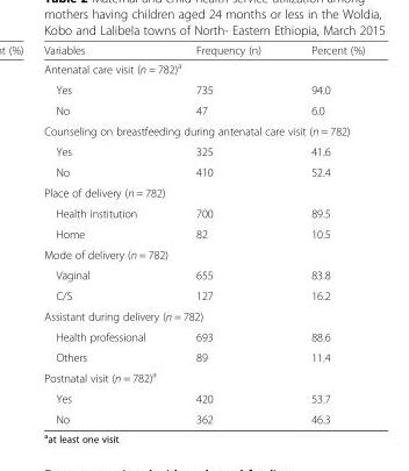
<table><thead><tr><td>Variables</td><td>Frequency (n)</td><td>Percent (%)</td></tr></thead><tbody><tr><td colspan="3">Antenatal care visit (n = 782)<sup>a</sup></td></tr><tr><td>Yes</td><td>735</td><td>94.0</td></tr><tr><td>No</td><td>47</td><td>6.0</td></tr><tr><td colspan="3">Counseling on breastfeeding during antenatal care visit (n = 782)</td></tr><tr><td>Yes</td><td>325</td><td>41.6</td></tr><tr><td>No</td><td>410</td><td>52.4</td></tr><tr><td colspan="3">Place of delivery (n = 782)</td></tr><tr><td>Health institution</td><td>700</td><td>89.5</td></tr><tr><td>Home</td><td>82</td><td>10.5</td></tr><tr><td colspan="3">Mode of delivery (n = 782)</td></tr><tr><td>Vaginal</td><td>655</td><td>83.8</td></tr><tr><td>C/S</td><td>127</td><td>16.2</td></tr><tr><td colspan="3">Assistant during delivery (n = 782)</td></tr><tr><td>Health professional</td><td>693</td><td>88.6</td></tr><tr><td>Others</td><td>89</td><td>11.4</td></tr><tr><td colspan="3">Postnatal visit (n = 782)<sup>a</sup></td></tr><tr><td>Yes</td><td>420</td><td>53.7</td></tr><tr><td>No</td><td>362</td><td>46.3</td></tr></tbody></table>